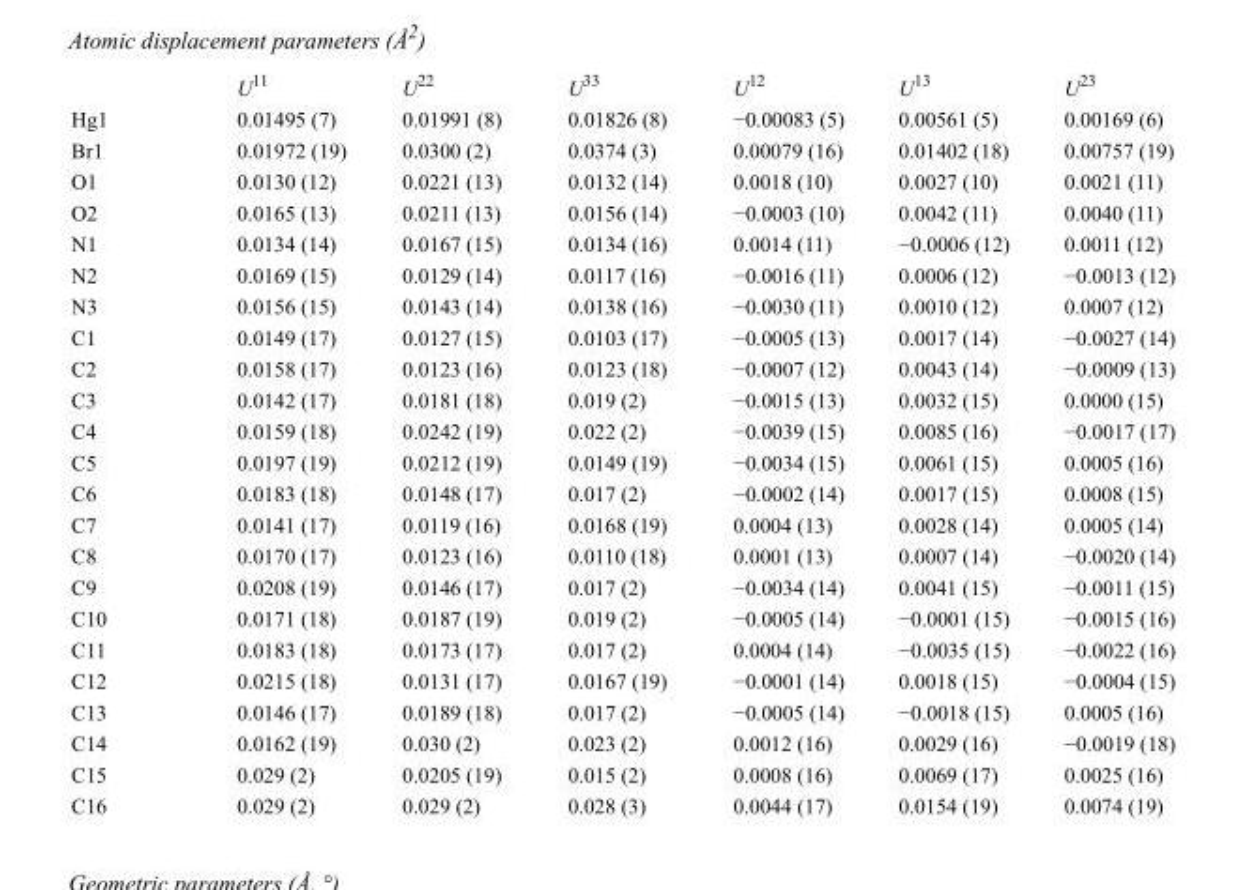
<table><thead><tr><td></td><td>U<sup>11</sup></td><td>U<sup>22</sup></td><td>U<sup>33</sup></td><td>U<sup>12</sup></td><td>U<sup>13</sup></td><td>U<sup>23</sup></td></tr></thead><tbody><tr><td>Hg1</td><td>0.01495 (7)</td><td>0.01991 (8)</td><td>0.01826 (8)</td><td>−0.00083 (5)</td><td>0.00561 (5)</td><td>0.00169 (6)</td></tr><tr><td>Br1</td><td>0.01972 (19)</td><td>0.0300 (2)</td><td>0.0374 (3)</td><td>0.00079 (16)</td><td>0.01402 (18)</td><td>0.00757 (19)</td></tr><tr><td>O1</td><td>0.0130 (12)</td><td>0.0221 (13)</td><td>0.0132 (14)</td><td>0.0018 (10)</td><td>0.0027 (10)</td><td>0.0021 (11)</td></tr><tr><td>O2</td><td>0.0165 (13)</td><td>0.0211 (13)</td><td>0.0156 (14)</td><td>−0.0003 (10)</td><td>0.0042 (11)</td><td>0.0040 (11)</td></tr><tr><td>N1</td><td>0.0134 (14)</td><td>0.0167 (15)</td><td>0.0134 (16)</td><td>0.0014 (11)</td><td>−0.0006 (12)</td><td>0.0011 (12)</td></tr><tr><td>N2</td><td>0.0169 (15)</td><td>0.0129 (14)</td><td>0.0117 (16)</td><td>−0.0016 (11)</td><td>0.0006 (12)</td><td>−0.0013 (12)</td></tr><tr><td>N3</td><td>0.0156 (15)</td><td>0.0143 (14)</td><td>0.0138 (16)</td><td>−0.0030 (11)</td><td>0.0010 (12)</td><td>0.0007 (12)</td></tr><tr><td>C1</td><td>0.0149 (17)</td><td>0.0127 (15)</td><td>0.0103 (17)</td><td>−0.0005 (13)</td><td>0.0017 (14)</td><td>−0.0027 (14)</td></tr><tr><td>C2</td><td>0.0158 (17)</td><td>0.0123 (16)</td><td>0.0123 (18)</td><td>−0.0007 (12)</td><td>0.0043 (14)</td><td>−0.0009 (13)</td></tr><tr><td>C3</td><td>0.0142 (17)</td><td>0.0181 (18)</td><td>0.019 (2)</td><td>−0.0015 (13)</td><td>0.0032 (15)</td><td>0.0000 (15)</td></tr><tr><td>C4</td><td>0.0159 (18)</td><td>0.0242 (19)</td><td>0.022 (2)</td><td>−0.0039 (15)</td><td>0.0085 (16)</td><td>−0.0017 (17)</td></tr><tr><td>C5</td><td>0.0197 (19)</td><td>0.0212 (19)</td><td>0.0149 (19)</td><td>−0.0034 (15)</td><td>0.0061 (15)</td><td>0.0005 (16)</td></tr><tr><td>C6</td><td>0.0183 (18)</td><td>0.0148 (17)</td><td>0.017 (2)</td><td>−0.0002 (14)</td><td>0.0017 (15)</td><td>0.0008 (15)</td></tr><tr><td>C7</td><td>0.0141 (17)</td><td>0.0119 (16)</td><td>0.0168 (19)</td><td>0.0004 (13)</td><td>0.0028 (14)</td><td>0.0005 (14)</td></tr><tr><td>C8</td><td>0.0170 (17)</td><td>0.0123 (16)</td><td>0.0110 (18)</td><td>0.0001 (13)</td><td>0.0007 (14)</td><td>−0.0020 (14)</td></tr><tr><td>C9</td><td>0.0208 (19)</td><td>0.0146 (17)</td><td>0.017 (2)</td><td>−0.0034 (14)</td><td>0.0041 (15)</td><td>−0.0011 (15)</td></tr><tr><td>C10</td><td>0.0171 (18)</td><td>0.0187 (19)</td><td>0.019 (2)</td><td>−0.0005 (14)</td><td>−0.0001 (15)</td><td>−0.0015 (16)</td></tr><tr><td>C11</td><td>0.0183 (18)</td><td>0.0173 (17)</td><td>0.017 (2)</td><td>0.0004 (14)</td><td>−0.0035 (15)</td><td>−0.0022 (16)</td></tr><tr><td>C12</td><td>0.0215 (18)</td><td>0.0131 (17)</td><td>0.0167 (19)</td><td>−0.0001 (14)</td><td>0.0018 (15)</td><td>−0.0004 (15)</td></tr><tr><td>C13</td><td>0.0146 (17)</td><td>0.0189 (18)</td><td>0.017 (2)</td><td>−0.0005 (14)</td><td>−0.0018 (15)</td><td>0.0005 (16)</td></tr><tr><td>C14</td><td>0.0162 (19)</td><td>0.030 (2)</td><td>0.023 (2)</td><td>0.0012 (16)</td><td>0.0029 (16)</td><td>−0.0019 (18)</td></tr><tr><td>C15</td><td>0.029 (2)</td><td>0.0205 (19)</td><td>0.015 (2)</td><td>0.0008 (16)</td><td>0.0069 (17)</td><td>0.0025 (16)</td></tr><tr><td>C16</td><td>0.029 (2)</td><td>0.029 (2)</td><td>0.028 (3)</td><td>0.0044 (17)</td><td>0.0154 (19)</td><td>0.0074 (19)</td></tr></tbody></table>